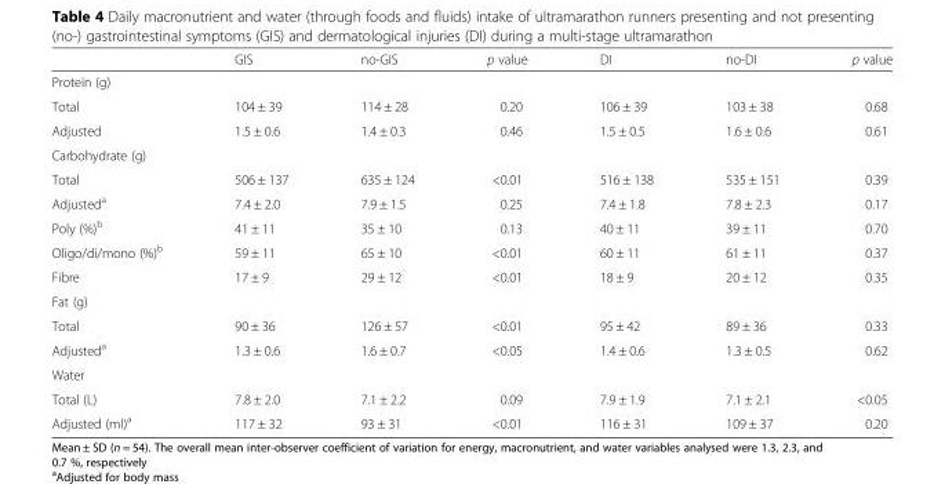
<table><thead><tr><td></td><td>GIS</td><td>no-GIS</td><td>p value</td><td>DI</td><td>no-DI</td><td>p value</td></tr></thead><tbody><tr><td colspan="7">Protein (g)</td></tr><tr><td>Total</td><td>104 ± 39</td><td>114 ± 28</td><td>0.20</td><td>106 ± 39</td><td>103 ± 38</td><td>0.68</td></tr><tr><td>Adjusted</td><td>1.5 ± 0.6</td><td>1.4 ± 0.3</td><td>0.46</td><td>1.5 ± 0.5</td><td>1.6 ± 0.6</td><td>0.61</td></tr><tr><td colspan="7">Carbohydrate (g)</td></tr><tr><td>Total</td><td>506 ± 137</td><td>635 ± 124</td><td>&lt;0.01</td><td>516 ± 138</td><td>535 ± 151</td><td>0.39</td></tr><tr><td>Adjusted<sup>a</sup></td><td>7.4 ± 2.0</td><td>7.9 ± 1.5</td><td>0.25</td><td>7.4 ± 1.8</td><td>7.8 ± 2.3</td><td>0.17</td></tr><tr><td>Poly (%)<sup>b</sup></td><td>41 ± 11</td><td>35 ± 10</td><td>0.13</td><td>40 ± 11</td><td>39 ± 11</td><td>0.70</td></tr><tr><td>Oligo/di/mono (%)<sup>b</sup></td><td>59 ± 11</td><td>65 ± 10</td><td>&lt;0.01</td><td>60 ± 11</td><td>61 ± 11</td><td>0.37</td></tr><tr><td>Fibre</td><td>17 ± 9</td><td>29 ± 12</td><td>&lt;0.01</td><td>18 ± 9</td><td>20 ± 12</td><td>0.35</td></tr><tr><td colspan="7">Fat (g)</td></tr><tr><td>Total</td><td>90 ± 36</td><td>126 ± 57</td><td>&lt;0.01</td><td>95 ± 42</td><td>89 ± 36</td><td>0.33</td></tr><tr><td>Adjusted<sup>a</sup></td><td>1.3 ± 0.6</td><td>1.6 ± 0.7</td><td>&lt;0.05</td><td>1.4 ± 0.6</td><td>1.3 ± 0.5</td><td>0.62</td></tr><tr><td colspan="7">Water</td></tr><tr><td>Total (L)</td><td>7.8 ± 2.0</td><td>7.1 ± 2.2</td><td>0.09</td><td>7.9 ± 1.9</td><td>7.1 ± 2.1</td><td>&lt;0.05</td></tr><tr><td>Adjusted (ml)<sup>a</sup></td><td>117 ± 32</td><td>93 ± 31</td><td>&lt;0.01</td><td>116 ± 31</td><td>109 ± 37</td><td>0.20</td></tr></tbody></table>